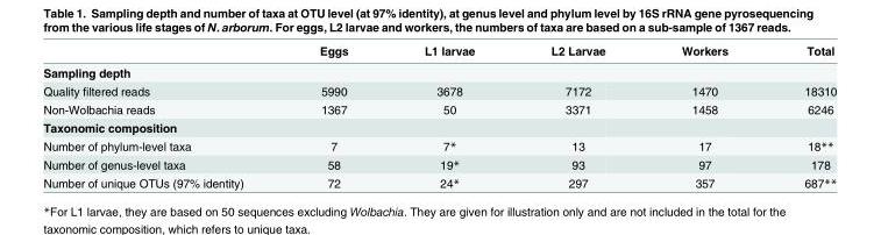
<table><thead><tr><td></td><td>Eggs</td><td>L1 larvae</td><td>L2 Larvae</td><td>Workers</td><td>Total</td></tr></thead><tbody><tr><td colspan="6">Sampling depth</td></tr><tr><td>Quality filtered reads</td><td>5990</td><td>3678</td><td>7172</td><td>1470</td><td>18310</td></tr><tr><td>Non-Wolbachia reads</td><td>1367</td><td>50</td><td>3371</td><td>1458</td><td>6246</td></tr><tr><td colspan="6">Taxonomic composition</td></tr><tr><td>Number of phylum-level taxa</td><td>7</td><td>7*</td><td>13</td><td>17</td><td>18**</td></tr><tr><td>Number of genus-level taxa</td><td>58</td><td>19*</td><td>93</td><td>97</td><td>178</td></tr><tr><td>Number of unique OTUs (97% identity)</td><td>72</td><td>24*</td><td>297</td><td>357</td><td>687**</td></tr></tbody></table>